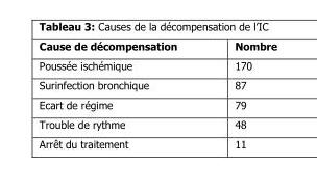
<table><thead><tr><td>Cause de décompensation</td><td>Nombre</td></tr></thead><tbody><tr><td>Poussée ischémique</td><td>170</td></tr><tr><td>Surinfection bronchique</td><td>87</td></tr><tr><td>Ecart de régime</td><td>79</td></tr><tr><td>Trouble de rythme</td><td>48</td></tr><tr><td>Arrêt du traitement</td><td>11</td></tr></tbody></table>